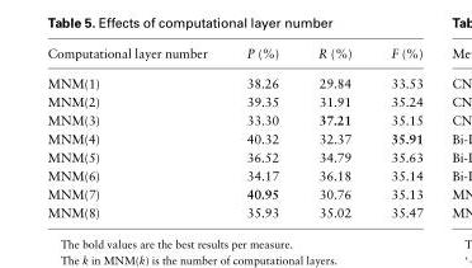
<table><thead><tr><td>Computational layer number</td><td>P (%)</td><td>R (%)</td><td>F (%)</td></tr></thead><tbody><tr><td>MNM(1)</td><td>38.26</td><td>29.84</td><td>33.53</td></tr><tr><td>MNM(2)</td><td>39.35</td><td>31.91</td><td>35.24</td></tr><tr><td>MNM(3)</td><td>33.30</td><td>37.21</td><td>35.15</td></tr><tr><td>MNM(4)</td><td>40.32</td><td>32.37</td><td>35.91</td></tr><tr><td>MNM(5)</td><td>36.52</td><td>34.79</td><td>35.63</td></tr><tr><td>MNM(6)</td><td>34.17</td><td>36.18</td><td>35.14</td></tr><tr><td>MNM(7)</td><td>40.95</td><td>30.76</td><td>35.13</td></tr><tr><td>MNM(8)</td><td>35.93</td><td>35.02</td><td>35.47</td></tr></tbody></table>